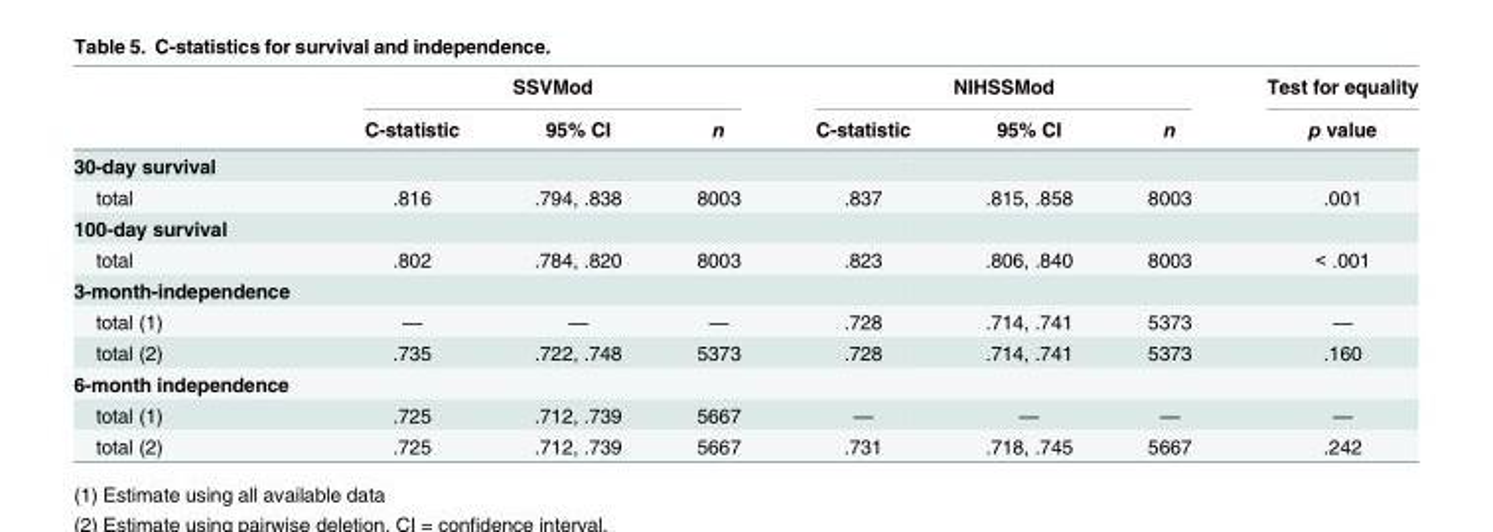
<table><thead><tr><td rowspan="2"></td><td colspan="3">SSVMod</td><td colspan="3">NIHSSMod</td><td rowspan="2">Test for equality p value</td></tr><tr><td>C-statistic</td><td>95% CI</td><td>n</td><td>C-statistic</td><td>95% CI</td><td>n</td></tr></thead><tbody><tr><td colspan="8">30-day survival</td></tr><tr><td>total</td><td>.816</td><td>.794, .838</td><td>8003</td><td>.837</td><td>.815, .858</td><td>8003</td><td>.001</td></tr><tr><td colspan="8">100-day survival</td></tr><tr><td>total</td><td>.802</td><td>.784, .820</td><td>8003</td><td>.823</td><td>.806, .840</td><td>8003</td><td>&lt; .001</td></tr><tr><td colspan="8">3-month-independence</td></tr><tr><td>total (1)</td><td>—</td><td>—</td><td>—</td><td>.728</td><td>.714, .741</td><td>5373</td><td>—</td></tr><tr><td>total (2)</td><td>.735</td><td>.722, .748</td><td>5373</td><td>.728</td><td>.714, .741</td><td>5373</td><td>.160</td></tr><tr><td colspan="8">6-month independence</td></tr><tr><td>total (1)</td><td>.725</td><td>.712, .739</td><td>5667</td><td>—</td><td>—</td><td>—</td><td>—</td></tr><tr><td>total (2)</td><td>.725</td><td>.712, .739</td><td>5667</td><td>.731</td><td>.718, .745</td><td>5667</td><td>.242</td></tr></tbody></table>